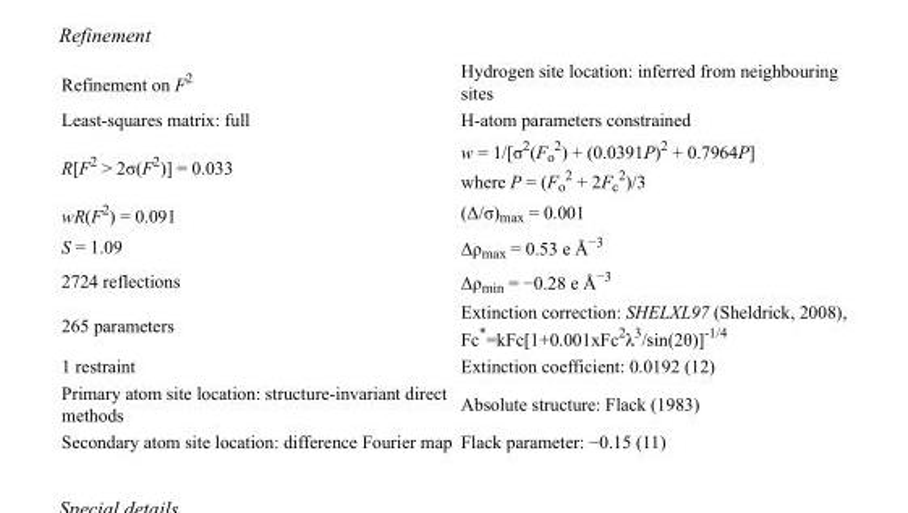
<table><tbody><tr><td>Refinement on F<sup>2</sup></td><td>Hydrogen site location: inferred from neighbouring sites</td></tr><tr><td>Least-squares matrix: full</td><td>H-atom parameters constrained</td></tr><tr><td>R[F<sup>2</sup> &gt; 2σ(F<sup>2</sup>)] = 0.033</td><td>w = 1/[σ<sup>2</sup>(F<sub>o</sub> <sup>2</sup>) + (0.0391P)<sup>2</sup> + 0.7964P] where P = (F<sub>o</sub> <sup>2</sup> + 2F<sub>c</sub> <sup>2</sup>)/3</td></tr><tr><td>wR(F<sup>2</sup>) = 0.091</td><td>(Δ/σ)<sub>max</sub> = 0.001</td></tr><tr><td>S = 1.09</td><td>Δρ<sub>max</sub> = 0.53 e Å<sup>−3</sup></td></tr><tr><td>2724 reflections</td><td>Δρ<sub>min</sub> = −0.28 e Å<sup>−3</sup></td></tr><tr><td>265 parameters</td><td>Extinction correction: SHELXL97 (Sheldrick, 2008), Fc*=kFc[1+0.001xFc<sup>2</sup>λ<sup>3</sup>/sin(2θ)]<sup>-1/4</sup></td></tr><tr><td>1 restraint</td><td>Extinction coefficient: 0.0192 (12)</td></tr><tr><td>Primary atom site location: structure-invariant direct methods</td><td>Absolute structure: Flack (1983)</td></tr><tr><td>Secondary atom site location: difference Fourier map</td><td>Flack parameter: −0.15 (11)</td></tr></tbody></table>